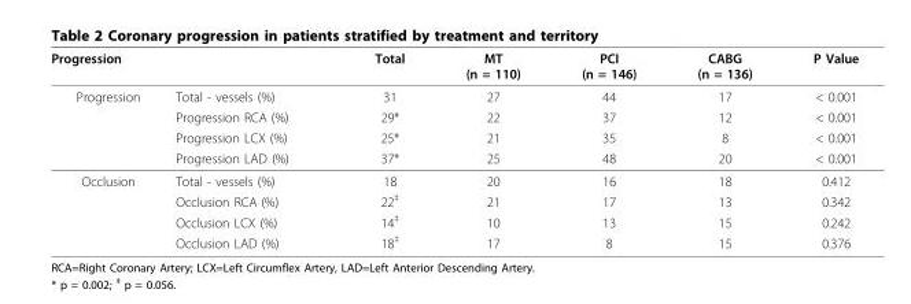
<table><thead><tr><td colspan="2">Progression</td><td rowspan="2">Total 31</td><td rowspan="2">MT (n = 110) 27</td><td rowspan="2">PCI (n = 146) 44</td><td rowspan="2">CABG (n = 136) 17</td><td rowspan="2">P Value &lt; 0.001</td></tr><tr><td>Progression</td><td>Total - vessels (%)</td></tr></thead><tbody><tr><td></td><td>Progression RCA (%)</td><td>29*</td><td>22</td><td>37</td><td>12</td><td>&lt; 0.001</td></tr><tr><td></td><td>Progression LCX (%)</td><td>25*</td><td>21</td><td>35</td><td>8</td><td>&lt; 0.001</td></tr><tr><td></td><td>Progression LAD (%)</td><td>37*</td><td>25</td><td>48</td><td>20</td><td>&lt; 0.001</td></tr><tr><td rowspan="4">Occlusion</td><td>Total - vessels (%)</td><td>18</td><td>20</td><td>16</td><td>18</td><td>0.412</td></tr><tr><td>Occlusion RCA (%)</td><td>22‡</td><td>21</td><td>17</td><td>13</td><td>0.342</td></tr><tr><td>Occlusion LCX (%)</td><td>14‡</td><td>10</td><td>13</td><td>15</td><td>0.242</td></tr><tr><td>Occlusion LAD (%)</td><td>18‡</td><td>17</td><td>8</td><td>15</td><td>0.376</td></tr></tbody></table>